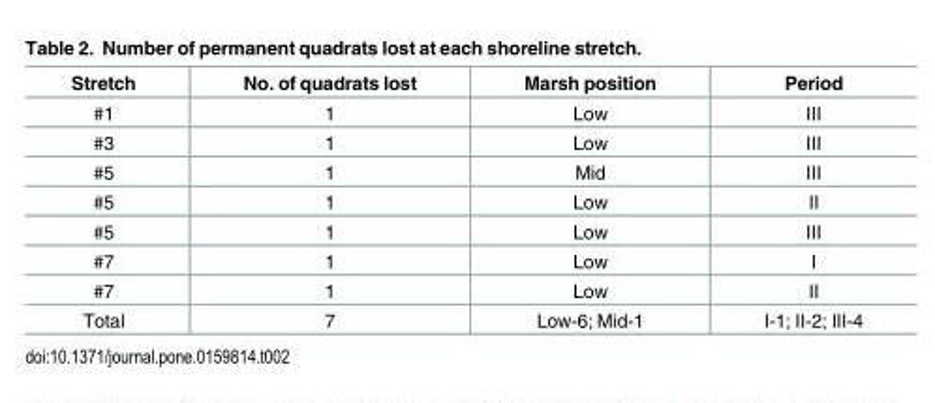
<table><thead><tr><td>Stretch</td><td>No. of quadrats lost</td><td>Marsh position</td><td>Period</td></tr></thead><tbody><tr><td>#1</td><td>1</td><td>Low</td><td>III</td></tr><tr><td>#3</td><td>1</td><td>Low</td><td>III</td></tr><tr><td>#5</td><td>1</td><td>Mid</td><td>III</td></tr><tr><td>#5</td><td>1</td><td>Low</td><td>II</td></tr><tr><td>#5</td><td>1</td><td>Low</td><td>III</td></tr><tr><td>#7</td><td>1</td><td>Low</td><td>I</td></tr><tr><td>#7</td><td>1</td><td>Low</td><td>II</td></tr><tr><td>Total</td><td>7</td><td>Low-6; Mid-1</td><td>I-1; II-2; III-4</td></tr></tbody></table>